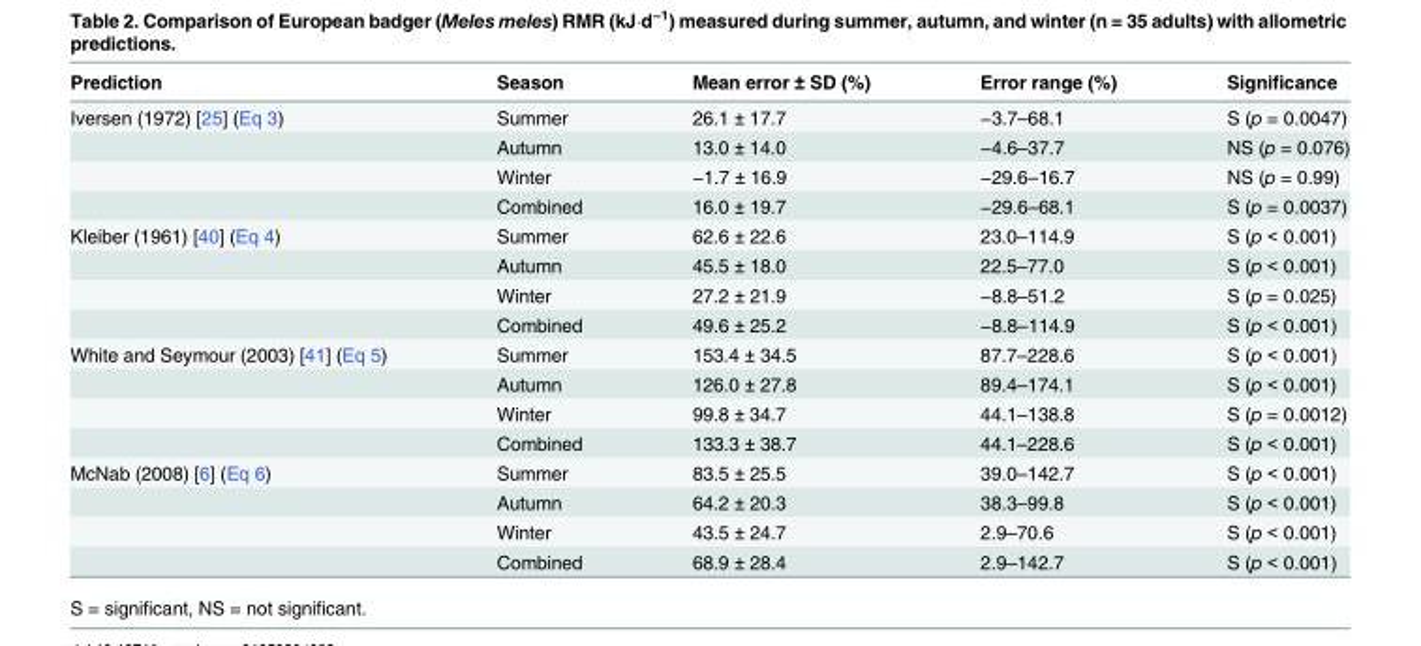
<table><thead><tr><td>Prediction</td><td>Season</td><td>Mean error ± SD (%)</td><td>Error range (%)</td><td>Significance</td></tr></thead><tbody><tr><td rowspan="4">Iversen (1972) [25] (Eq 3)</td><td>Summer</td><td>26.1 ± 17.7</td><td>−3.7–68.1</td><td>S (p = 0.0047)</td></tr><tr><td>Autumn</td><td>13.0 ± 14.0</td><td>−4.6–37.7</td><td>NS (p = 0.076)</td></tr><tr><td>Winter</td><td>−1.7 ± 16.9</td><td>−29.6–16.7</td><td>NS (p = 0.99)</td></tr><tr><td>Combined</td><td>16.0 ± 19.7</td><td>−29.6–68.1</td><td>S (p = 0.0037)</td></tr><tr><td rowspan="4">Kleiber (1961) [40] (Eq 4)</td><td>Summer</td><td>62.6 ± 22.6</td><td>23.0–114.9</td><td>S (p &lt; 0.001)</td></tr><tr><td>Autumn</td><td>45.5 ± 18.0</td><td>22.5–77.0</td><td>S (p &lt; 0.001)</td></tr><tr><td>Winter</td><td>27.2 ± 21.9</td><td>−8.8–51.2</td><td>S (p = 0.025)</td></tr><tr><td>Combined</td><td>49.6 ± 25.2</td><td>−8.8–114.9</td><td>S (p &lt; 0.001)</td></tr><tr><td rowspan="4">White and Seymour (2003) [41] (Eq 5)</td><td>Summer</td><td>153.4 ± 34.5</td><td>87.7–228.6</td><td>S (p &lt; 0.001)</td></tr><tr><td>Autumn</td><td>126.0 ± 27.8</td><td>89.4–174.1</td><td>S (p &lt; 0.001)</td></tr><tr><td>Winter</td><td>99.8 ± 34.7</td><td>44.1–138.8</td><td>S (p = 0.0012)</td></tr><tr><td>Combined</td><td>133.3 ± 38.7</td><td>44.1–228.6</td><td>S (p &lt; 0.001)</td></tr><tr><td rowspan="4">McNab (2008) [6] (Eq 6)</td><td>Summer</td><td>83.5 ± 25.5</td><td>39.0–142.7</td><td>S (p &lt; 0.001)</td></tr><tr><td>Autumn</td><td>64.2 ± 20.3</td><td>38.3–99.8</td><td>S (p &lt; 0.001)</td></tr><tr><td>Winter</td><td>43.5 ± 24.7</td><td>2.9–70.6</td><td>S (p &lt; 0.001)</td></tr><tr><td>Combined</td><td>68.9 ± 28.4</td><td>2.9–142.7</td><td>S (p &lt; 0.001)</td></tr></tbody></table>